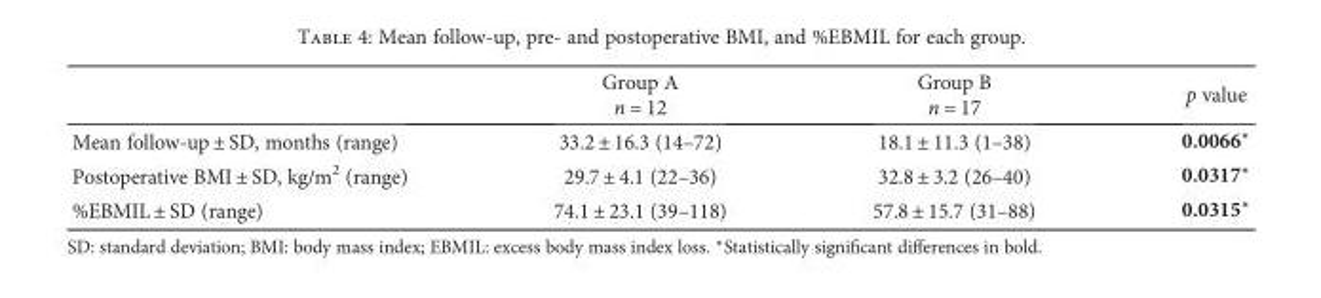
<table><thead><tr><td></td><td>Group A n = 12</td><td>Group B n = 17</td><td>p value</td></tr></thead><tbody><tr><td>Mean follow-up ± SD, months (range)</td><td>33.2 ± 16.3 (14–72)</td><td>18.1 ± 11.3 (1–38)</td><td>0.0066∗</td></tr><tr><td>Postoperative BMI ± SD, kg/m<sup>2</sup> (range)</td><td>29.7 ± 4.1 (22–36)</td><td>32.8 ± 3.2 (26–40)</td><td>0.0317∗</td></tr><tr><td>%EBMIL ± SD (range)</td><td>74.1 ± 23.1 (39–118)</td><td>57.8 ± 15.7 (31–88)</td><td>0.0315∗</td></tr></tbody></table>